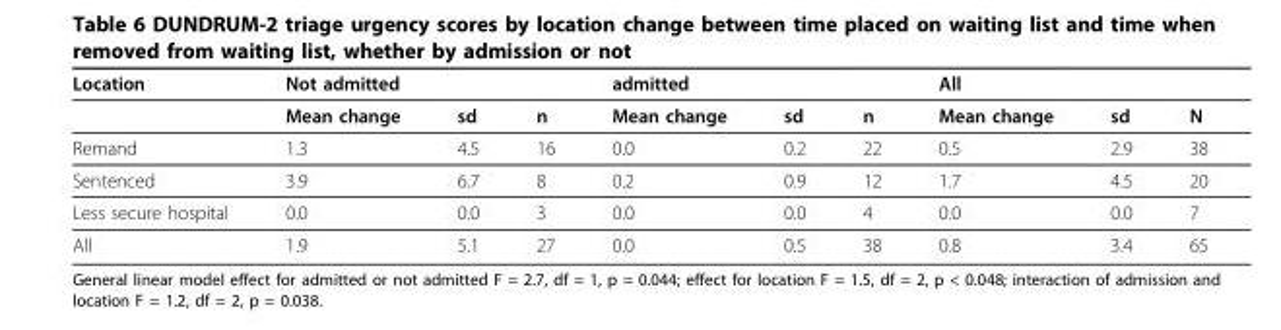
<table><thead><tr><td rowspan="2">Location</td><td colspan="3">Not admitted</td><td colspan="3">admitted</td><td colspan="3">All</td></tr><tr><td>Mean change</td><td>sd</td><td>n</td><td>Mean change</td><td>sd</td><td>n</td><td>Mean change</td><td>sd</td><td>N</td></tr></thead><tbody><tr><td>Remand</td><td>1.3</td><td>4.5</td><td>16</td><td>0.0</td><td>0.2</td><td>22</td><td>0.5</td><td>2.9</td><td>38</td></tr><tr><td>Sentenced</td><td>3.9</td><td>6.7</td><td>8</td><td>0.2</td><td>0.9</td><td>12</td><td>1.7</td><td>4.5</td><td>20</td></tr><tr><td>Less secure hospital</td><td>0.0</td><td>0.0</td><td>3</td><td>0.0</td><td>0.0</td><td>4</td><td>0.0</td><td>0.0</td><td>7</td></tr><tr><td>All</td><td>1.9</td><td>5.1</td><td>27</td><td>0.0</td><td>0.5</td><td>38</td><td>0.8</td><td>3.4</td><td>65</td></tr></tbody></table>